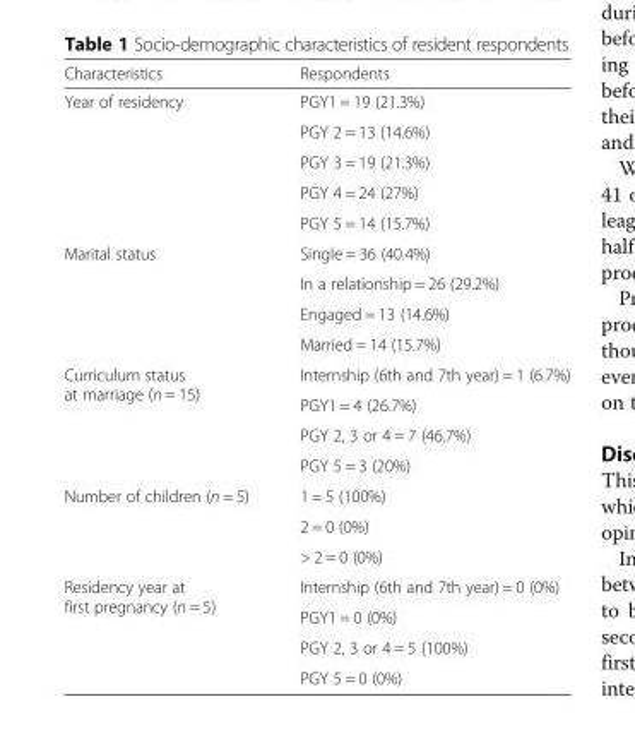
<table><thead><tr><td>Characteristics</td><td>Respondents</td></tr></thead><tbody><tr><td rowspan="5">Year of residency</td><td>PGY1 = 19 (21.3%)</td></tr><tr><td>PGY 2 = 13 (14.6%)</td></tr><tr><td>PGY 3 = 19 (21.3%)</td></tr><tr><td>PGY 4 = 24 (27%)</td></tr><tr><td>PGY 5 = 14 (15.7%)</td></tr><tr><td rowspan="4">Marital status</td><td>Single = 36 (40.4%)</td></tr><tr><td>In a relationship = 26 (29.2%)</td></tr><tr><td>Engaged = 13 (14.6%)</td></tr><tr><td>Married = 14 (15.7%)</td></tr><tr><td rowspan="4">Curriculum status at marriage (n = 15)</td><td>Internship (6th and 7th year) = 1 (6.7%)</td></tr><tr><td>PGY1 = 4 (26.7%)</td></tr><tr><td>PGY 2, 3 or 4 = 7 (46.7%)</td></tr><tr><td>PGY 5 = 3 (20%)</td></tr><tr><td rowspan="3">Number of children (n = 5)</td><td>1 = 5 (100%)</td></tr><tr><td>2 = 0 (0%)</td></tr><tr><td>&gt; 2 = 0 (0%)</td></tr><tr><td rowspan="4">Residency year at first pregnancy (n = 5)</td><td>Internship (6th and 7th year) = 0 (0%)</td></tr><tr><td>PGY1 = 0 (0%)</td></tr><tr><td>PGY 2, 3 or 4 = 5 (100%)</td></tr><tr><td>PGY 5 = 0 (0%)</td></tr></tbody></table>